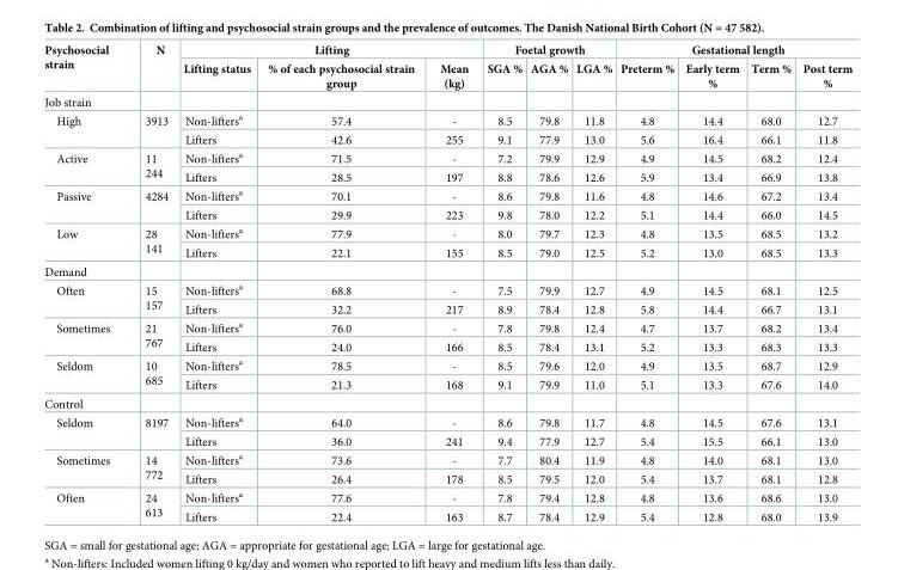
<table><thead><tr><td rowspan="2">Psychosocial strain</td><td rowspan="2">N</td><td colspan="3">Lifting</td><td colspan="3">Foetal growth</td><td colspan="4">Gestational length</td></tr><tr><td>Lifting status</td><td>% of each psychosocial strain group</td><td>Mean (kg)</td><td>SGA %</td><td>AGA %</td><td>LGA %</td><td>Preterm %</td><td>Early term %</td><td>Term %</td><td>Post term %</td></tr></thead><tbody><tr><td colspan="12">Job strain</td></tr><tr><td rowspan="2">High</td><td rowspan="2">3913</td><td>Non-lifters<sup>a</sup></td><td>57.4</td><td>-</td><td>8.5</td><td>79.8</td><td>11.8</td><td>4.8</td><td>14.4</td><td>68.0</td><td>12.7</td></tr><tr><td>Lifters</td><td>42.6</td><td>255</td><td>9.1</td><td>77.9</td><td>13.0</td><td>5.6</td><td>16.4</td><td>66.1</td><td>11.8</td></tr><tr><td rowspan="2">Active</td><td rowspan="2">11 244</td><td>Non-lifters<sup>a</sup></td><td>71.5</td><td>-</td><td>7.2</td><td>79.9</td><td>12.9</td><td>4.9</td><td>14.5</td><td>68.2</td><td>12.4</td></tr><tr><td>Lifters</td><td>28.5</td><td>197</td><td>8.8</td><td>78.6</td><td>12.6</td><td>5.9</td><td>13.4</td><td>66.9</td><td>13.8</td></tr><tr><td rowspan="2">Passive</td><td rowspan="2">4284</td><td>Non-lifters<sup>a</sup></td><td>70.1</td><td>-</td><td>8.6</td><td>79.8</td><td>11.6</td><td>4.8</td><td>14.6</td><td>67.2</td><td>13.4</td></tr><tr><td>Lifters</td><td>29.9</td><td>223</td><td>9.8</td><td>78.0</td><td>12.2</td><td>5.1</td><td>14.4</td><td>66.0</td><td>14.5</td></tr><tr><td rowspan="2">Low</td><td rowspan="2">28 141</td><td>Non-lifters<sup>a</sup></td><td>77.9</td><td>-</td><td>8.0</td><td>79.7</td><td>12.3</td><td>4.8</td><td>13.5</td><td>68.5</td><td>13.2</td></tr><tr><td>Lifters</td><td>22.1</td><td>155</td><td>8.5</td><td>79.0</td><td>12.5</td><td>5.2</td><td>13.0</td><td>68.5</td><td>13.3</td></tr><tr><td colspan="12">Demand</td></tr><tr><td rowspan="2">Often</td><td rowspan="2">15 157</td><td>Non-lifters<sup>a</sup></td><td>68.8</td><td>-</td><td>7.5</td><td>79.9</td><td>12.7</td><td>4.9</td><td>14.5</td><td>68.1</td><td>12.5</td></tr><tr><td>Lifters</td><td>32.2</td><td>217</td><td>8.9</td><td>78.4</td><td>12.8</td><td>5.8</td><td>14.4</td><td>66.7</td><td>13.1</td></tr><tr><td rowspan="2">Sometimes</td><td rowspan="2">21 767</td><td>Non-lifters<sup>a</sup></td><td>76.0</td><td>-</td><td>7.8</td><td>79.8</td><td>12.4</td><td>4.7</td><td>13.7</td><td>68.2</td><td>13.4</td></tr><tr><td>Lifters</td><td>24.0</td><td>166</td><td>8.5</td><td>78.4</td><td>13.1</td><td>5.2</td><td>13.3</td><td>68.3</td><td>13.3</td></tr><tr><td rowspan="2">Seldom</td><td rowspan="2">10 685</td><td>Non-lifters<sup>a</sup></td><td>78.5</td><td>-</td><td>8.5</td><td>79.6</td><td>12.0</td><td>4.9</td><td>13.5</td><td>68.7</td><td>12.9</td></tr><tr><td>Lifters</td><td>21.3</td><td>168</td><td>9.1</td><td>79.9</td><td>11.0</td><td>5.1</td><td>13.3</td><td>67.6</td><td>14.0</td></tr><tr><td colspan="12">Control</td></tr><tr><td rowspan="2">Seldom</td><td rowspan="2">8197</td><td>Non-lifters<sup>a</sup></td><td>64.0</td><td>-</td><td>8.6</td><td>79.8</td><td>11.7</td><td>4.8</td><td>14.5</td><td>67.6</td><td>13.1</td></tr><tr><td>Lifters</td><td>36.0</td><td>241</td><td>9.4</td><td>77.9</td><td>12.7</td><td>5.4</td><td>15.5</td><td>66.1</td><td>13.0</td></tr><tr><td rowspan="2">Sometimes</td><td rowspan="2">14 772</td><td>Non-lifters<sup>a</sup></td><td>73.6</td><td>-</td><td>7.7</td><td>80.4</td><td>11.9</td><td>4.8</td><td>14.0</td><td>68.1</td><td>13.0</td></tr><tr><td>Lifters</td><td>26.4</td><td>178</td><td>8.5</td><td>79.5</td><td>12.0</td><td>5.4</td><td>13.7</td><td>68.1</td><td>12.8</td></tr><tr><td rowspan="2">Often</td><td rowspan="2">24 613</td><td>Non-lifters<sup>a</sup></td><td>77.6</td><td>-</td><td>7.8</td><td>79.4</td><td>12.8</td><td>4.8</td><td>13.6</td><td>68.6</td><td>13.0</td></tr><tr><td>Lifters</td><td>22.4</td><td>163</td><td>8.7</td><td>78.4</td><td>12.9</td><td>5.4</td><td>12.8</td><td>68.0</td><td>13.9</td></tr></tbody></table>